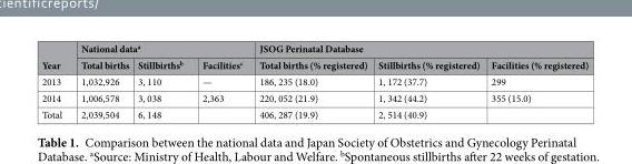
<table><thead><tr><td rowspan="2">Year</td><td colspan="3">National data<sup>a</sup></td><td colspan="3">JSOG Perinatal Database</td></tr><tr><td>Total births</td><td>Stillbirths<sup>b</sup></td><td>Facilities<sup>c</sup></td><td>Total births (% registered)</td><td>Stillbirths (% registered)</td><td>Facilities (% registered)</td></tr></thead><tbody><tr><td>2013</td><td>1,032,926</td><td>3, 110</td><td>—</td><td>186, 235 (18.0)</td><td>1, 172 (37.7)</td><td>299</td></tr><tr><td>2014</td><td>1,006,578</td><td>3, 038</td><td>2,363</td><td>220, 052 (21.9)</td><td>1, 342 (44.2)</td><td>355 (15.0)</td></tr><tr><td>Total</td><td>2,039,504</td><td>6, 148</td><td></td><td>406, 287 (19.9)</td><td>2, 514 (40.9)</td><td></td></tr></tbody></table>